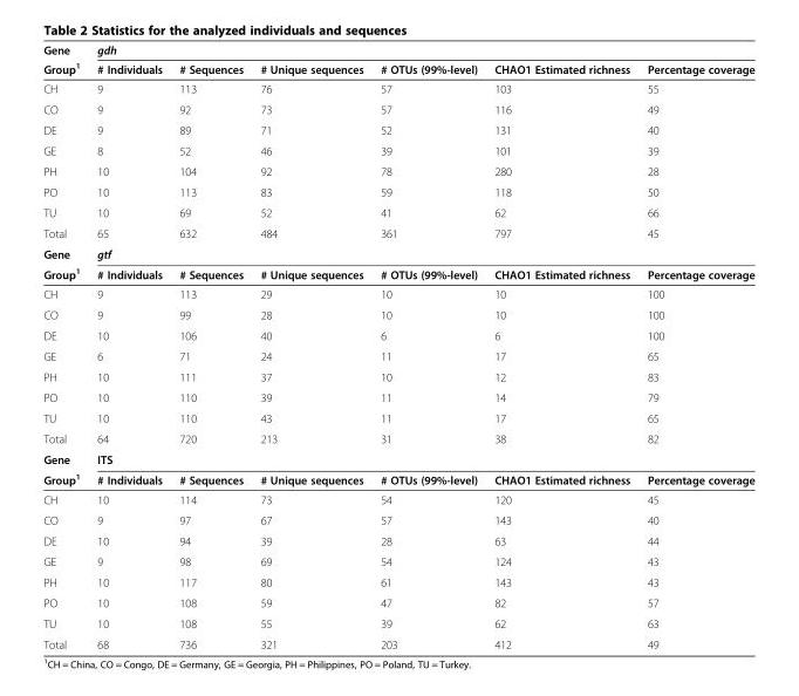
<table><thead><tr><td rowspan="2">Gene Group<sup>1</sup></td><td colspan="6">gdh</td></tr><tr><td># Individuals</td><td># Sequences</td><td># Unique sequences</td><td># OTUs (99%-level)</td><td>CHAO1 Estimated richness</td><td>Percentage coverage</td></tr></thead><tbody><tr><td>CH</td><td>9</td><td>113</td><td>76</td><td>57</td><td>103</td><td>55</td></tr><tr><td>CO</td><td>9</td><td>92</td><td>73</td><td>57</td><td>116</td><td>49</td></tr><tr><td>DE</td><td>9</td><td>89</td><td>71</td><td>52</td><td>131</td><td>40</td></tr><tr><td>GE</td><td>8</td><td>52</td><td>46</td><td>39</td><td>101</td><td>39</td></tr><tr><td>PH</td><td>10</td><td>104</td><td>92</td><td>78</td><td>280</td><td>28</td></tr><tr><td>PO</td><td>10</td><td>113</td><td>83</td><td>59</td><td>118</td><td>50</td></tr><tr><td>TU</td><td>10</td><td>69</td><td>52</td><td>41</td><td>62</td><td>66</td></tr><tr><td>Total</td><td>65</td><td>632</td><td>484</td><td>361</td><td>797</td><td>45</td></tr><tr><td>Gene</td><td colspan="6">gtf</td></tr><tr><td>Group<sup>1</sup></td><td># Individuals</td><td># Sequences</td><td># Unique sequences</td><td># OTUs (99%-level)</td><td>CHAO1 Estimated richness</td><td>Percentage coverage</td></tr><tr><td>CH</td><td>9</td><td>113</td><td>29</td><td>10</td><td>10</td><td>100</td></tr><tr><td>CO</td><td>9</td><td>99</td><td>28</td><td>10</td><td>10</td><td>100</td></tr><tr><td>DE</td><td>10</td><td>106</td><td>40</td><td>6</td><td>6</td><td>100</td></tr><tr><td>GE</td><td>6</td><td>71</td><td>24</td><td>11</td><td>17</td><td>65</td></tr><tr><td>PH</td><td>10</td><td>111</td><td>37</td><td>10</td><td>12</td><td>83</td></tr><tr><td>PO</td><td>10</td><td>110</td><td>39</td><td>11</td><td>14</td><td>79</td></tr><tr><td>TU</td><td>10</td><td>110</td><td>43</td><td>11</td><td>17</td><td>65</td></tr><tr><td>Total</td><td>64</td><td>720</td><td>213</td><td>31</td><td>38</td><td>82</td></tr><tr><td>Gene</td><td colspan="6">ITS</td></tr><tr><td>Group<sup>1</sup></td><td># Individuals</td><td># Sequences</td><td># Unique sequences</td><td># OTUs (99%-level)</td><td>CHAO1 Estimated richness</td><td>Percentage coverage</td></tr><tr><td>CH</td><td>10</td><td>114</td><td>73</td><td>54</td><td>120</td><td>45</td></tr><tr><td>CO</td><td>9</td><td>97</td><td>67</td><td>57</td><td>143</td><td>40</td></tr><tr><td>DE</td><td>10</td><td>94</td><td>39</td><td>28</td><td>63</td><td>44</td></tr><tr><td>GE</td><td>9</td><td>98</td><td>69</td><td>54</td><td>124</td><td>43</td></tr><tr><td>PH</td><td>10</td><td>117</td><td>80</td><td>61</td><td>143</td><td>43</td></tr><tr><td>PO</td><td>10</td><td>108</td><td>59</td><td>47</td><td>82</td><td>57</td></tr><tr><td>TU</td><td>10</td><td>108</td><td>55</td><td>39</td><td>62</td><td>63</td></tr><tr><td>Total</td><td>68</td><td>736</td><td>321</td><td>203</td><td>412</td><td>49</td></tr></tbody></table>